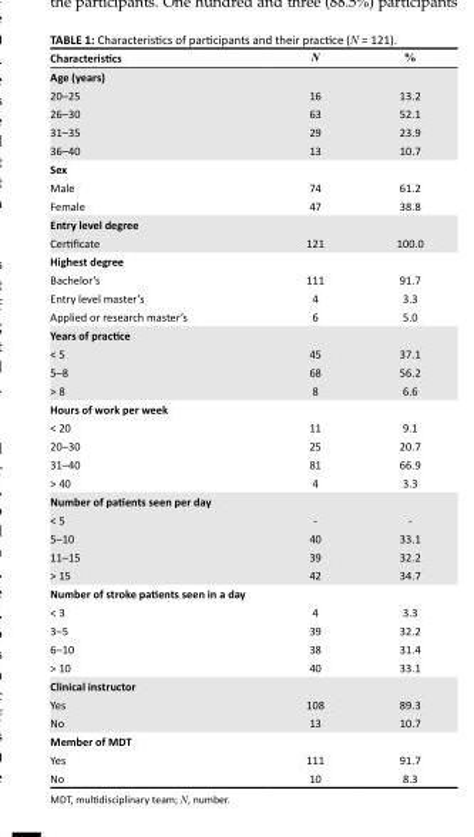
<table><thead><tr><td>Characteristics</td><td>N</td><td>%</td></tr></thead><tbody><tr><td colspan="3">Age (years)</td></tr><tr><td>20–25</td><td>16</td><td>13.2</td></tr><tr><td>26–30</td><td>63</td><td>52.1</td></tr><tr><td>31–35</td><td>29</td><td>23.9</td></tr><tr><td>36–40</td><td>13</td><td>10.7</td></tr><tr><td colspan="3">Sex</td></tr><tr><td>Male</td><td>74</td><td>61.2</td></tr><tr><td>Female</td><td>47</td><td>38.8</td></tr><tr><td colspan="3">Entry level degree</td></tr><tr><td>Certificate</td><td>121</td><td>100.0</td></tr><tr><td colspan="3">Highest degree</td></tr><tr><td>Bachelor’s</td><td>111</td><td>91.7</td></tr><tr><td>Entry level master’s</td><td>4</td><td>3.3</td></tr><tr><td>Applied or research master’s</td><td>6</td><td>5.0</td></tr><tr><td colspan="3">Years of practice</td></tr><tr><td>&lt; 5</td><td>45</td><td>37.1</td></tr><tr><td>5–8</td><td>68</td><td>56.2</td></tr><tr><td>&gt; 8</td><td>8</td><td>6.6</td></tr><tr><td colspan="3">Hours of work per week</td></tr><tr><td>&lt; 20</td><td>11</td><td>9.1</td></tr><tr><td>20–30</td><td>25</td><td>20.7</td></tr><tr><td>31–40</td><td>81</td><td>66.9</td></tr><tr><td>&gt; 40</td><td>4</td><td>3.3</td></tr><tr><td colspan="3">Number of patients seen per day</td></tr><tr><td>&lt; 5</td><td>-</td><td>-</td></tr><tr><td>5–10</td><td>40</td><td>33.1</td></tr><tr><td>11–15</td><td>39</td><td>32.2</td></tr><tr><td>&gt; 15</td><td>42</td><td>34.7</td></tr><tr><td colspan="3">Number of stroke patients seen in a day</td></tr><tr><td>&lt; 3</td><td>4</td><td>3.3</td></tr><tr><td>3–5</td><td>39</td><td>32.2</td></tr><tr><td>6–10</td><td>38</td><td>31.4</td></tr><tr><td>&gt; 10</td><td>40</td><td>33.1</td></tr><tr><td colspan="3">Clinical instructor</td></tr><tr><td>Yes</td><td>108</td><td>89.3</td></tr><tr><td>No</td><td>13</td><td>10.7</td></tr><tr><td colspan="3">Member of MDT</td></tr><tr><td>Yes</td><td>111</td><td>91.7</td></tr><tr><td>No</td><td>10</td><td>8.3</td></tr></tbody></table>